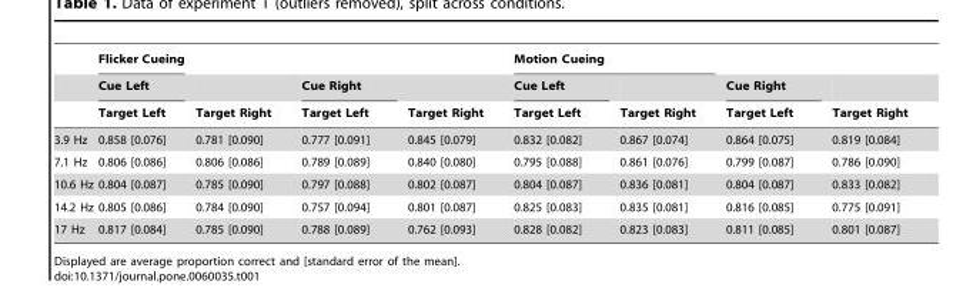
<table><thead><tr><td rowspan="3"></td><td rowspan="3">Flicker Cueing Cue Left Target Left</td><td rowspan="3">Target Right</td><td rowspan="3">Cue Right Target Left</td><td rowspan="3">Target Right</td><td colspan="2">Motion Cueing</td><td rowspan="3">Cue Right Target Left</td><td rowspan="3">Target Right</td></tr><tr><td rowspan="2">Cue Left Target Left</td><td rowspan="2">Target Right</td></tr><tr></tr></thead><tbody><tr><td>3.9 Hz</td><td>0.858 [0.076]</td><td>0.781 [0.090]</td><td>0.777 [0.091]</td><td>0.845 [0.079]</td><td>0.832 [0.082]</td><td>0.867 [0.074]</td><td>0.864 [0.075]</td><td>0.819 [0.084]</td></tr><tr><td>7.1 Hz</td><td>0.806 [0.086]</td><td>0.806 [0.086]</td><td>0.789 [0.089]</td><td>0.840 [0.080]</td><td>0.795 [0.088]</td><td>0.861 [0.076]</td><td>0.799 [0.087]</td><td>0.786 [0.090]</td></tr><tr><td>10.6 Hz</td><td>0.804 [0.087]</td><td>0.785 [0.090]</td><td>0.797 [0.088]</td><td>0.802 [0.087]</td><td>0.804 [0.087]</td><td>0.836 [0.081]</td><td>0.804 [0.087]</td><td>0.833 [0.082]</td></tr><tr><td>14.2 Hz</td><td>0.805 [0.086]</td><td>0.784 [0.090]</td><td>0.757 [0.094]</td><td>0.801 [0.087]</td><td>0.825 [0.083]</td><td>0.835 [0.081]</td><td>0.816 [0.085]</td><td>0.775 [0.091]</td></tr><tr><td>17 Hz</td><td>0.817 [0.084]</td><td>0.785 [0.090]</td><td>0.788 [0.089]</td><td>0.762 [0.093]</td><td>0.828 [0.082]</td><td>0.823 [0.083]</td><td>0.811 [0.085]</td><td>0.801 [0.087]</td></tr></tbody></table>